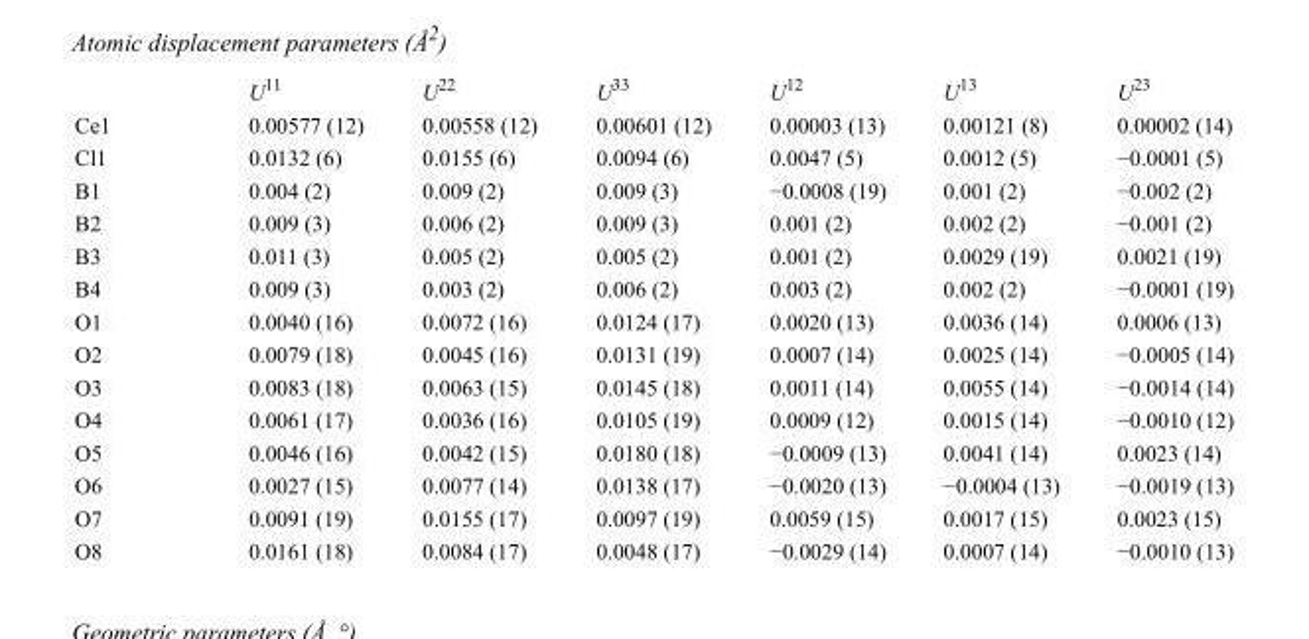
<table><thead><tr><td></td><td>U<sup>11</sup></td><td>U<sup>22</sup></td><td>U<sup>33</sup></td><td>U<sup>12</sup></td><td>U<sup>13</sup></td><td>U<sup>23</sup></td></tr></thead><tbody><tr><td>Ce1</td><td>0.00577 (12)</td><td>0.00558 (12)</td><td>0.00601 (12)</td><td>0.00003 (13)</td><td>0.00121 (8)</td><td>0.00002 (14)</td></tr><tr><td>Cl1</td><td>0.0132 (6)</td><td>0.0155 (6)</td><td>0.0094 (6)</td><td>0.0047 (5)</td><td>0.0012 (5)</td><td>−0.0001 (5)</td></tr><tr><td>B1</td><td>0.004 (2)</td><td>0.009 (2)</td><td>0.009 (3)</td><td>−0.0008 (19)</td><td>0.001 (2)</td><td>−0.002 (2)</td></tr><tr><td>B2</td><td>0.009 (3)</td><td>0.006 (2)</td><td>0.009 (3)</td><td>0.001 (2)</td><td>0.002 (2)</td><td>−0.001 (2)</td></tr><tr><td>B3</td><td>0.011 (3)</td><td>0.005 (2)</td><td>0.005 (2)</td><td>0.001 (2)</td><td>0.0029 (19)</td><td>0.0021 (19)</td></tr><tr><td>B4</td><td>0.009 (3)</td><td>0.003 (2)</td><td>0.006 (2)</td><td>0.003 (2)</td><td>0.002 (2)</td><td>−0.0001 (19)</td></tr><tr><td>O1</td><td>0.0040 (16)</td><td>0.0072 (16)</td><td>0.0124 (17)</td><td>0.0020 (13)</td><td>0.0036 (14)</td><td>0.0006 (13)</td></tr><tr><td>O2</td><td>0.0079 (18)</td><td>0.0045 (16)</td><td>0.0131 (19)</td><td>0.0007 (14)</td><td>0.0025 (14)</td><td>−0.0005 (14)</td></tr><tr><td>O3</td><td>0.0083 (18)</td><td>0.0063 (15)</td><td>0.0145 (18)</td><td>0.0011 (14)</td><td>0.0055 (14)</td><td>−0.0014 (14)</td></tr><tr><td>O4</td><td>0.0061 (17)</td><td>0.0036 (16)</td><td>0.0105 (19)</td><td>0.0009 (12)</td><td>0.0015 (14)</td><td>−0.0010 (12)</td></tr><tr><td>O5</td><td>0.0046 (16)</td><td>0.0042 (15)</td><td>0.0180 (18)</td><td>−0.0009 (13)</td><td>0.0041 (14)</td><td>0.0023 (14)</td></tr><tr><td>O6</td><td>0.0027 (15)</td><td>0.0077 (14)</td><td>0.0138 (17)</td><td>−0.0020 (13)</td><td>−0.0004 (13)</td><td>−0.0019 (13)</td></tr><tr><td>O7</td><td>0.0091 (19)</td><td>0.0155 (17)</td><td>0.0097 (19)</td><td>0.0059 (15)</td><td>0.0017 (15)</td><td>0.0023 (15)</td></tr><tr><td>O8</td><td>0.0161 (18)</td><td>0.0084 (17)</td><td>0.0048 (17)</td><td>−0.0029 (14)</td><td>0.0007 (14)</td><td>−0.0010 (13)</td></tr></tbody></table>